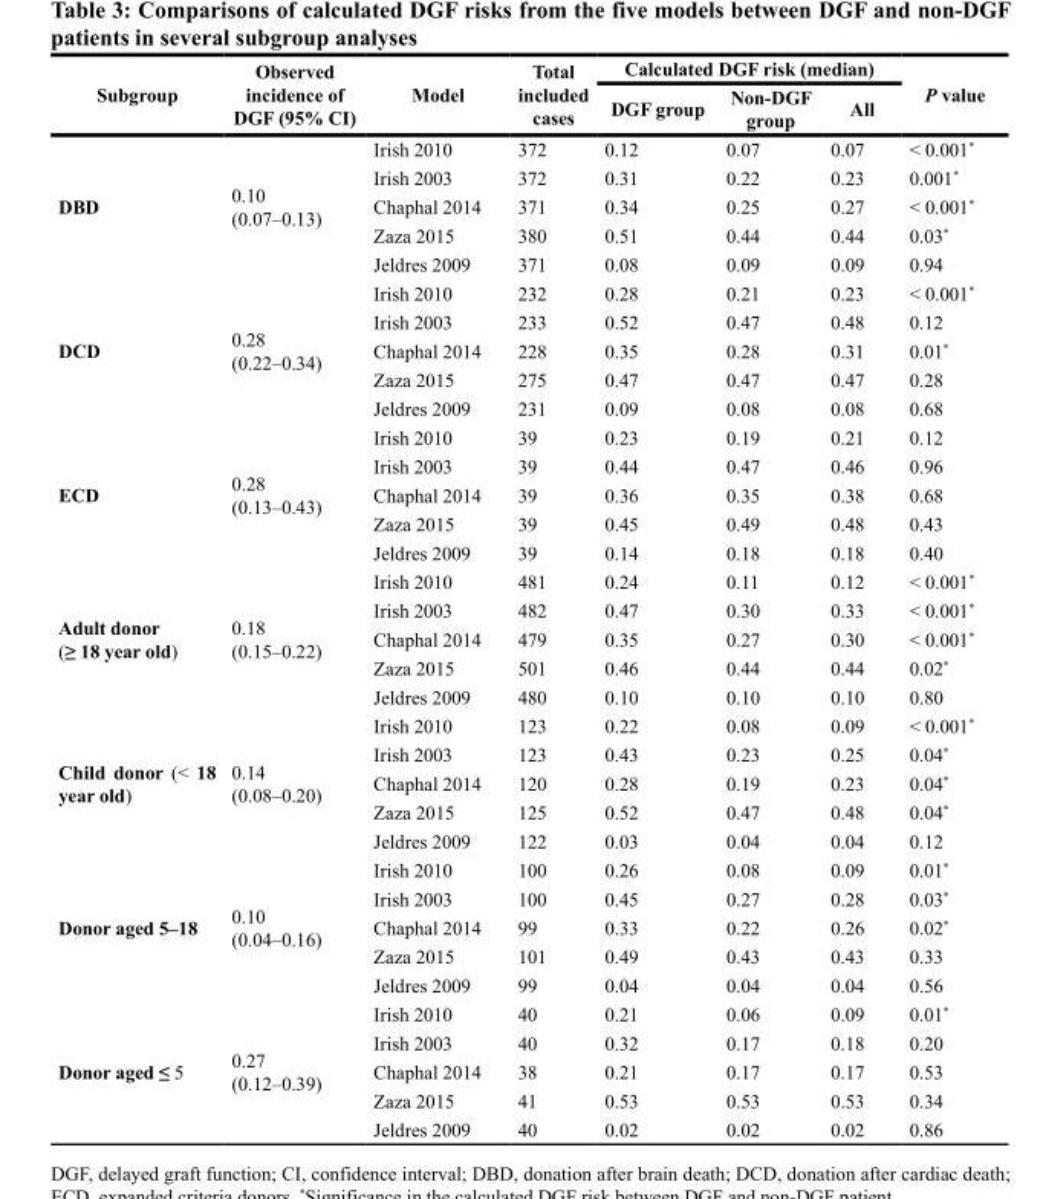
<table><thead><tr><td rowspan="2">Subgroup</td><td rowspan="2">Observed incidence of DGF (95% CI)</td><td rowspan="2">Model</td><td rowspan="2">Total included cases</td><td colspan="3">Calculated DGF risk (median)</td><td rowspan="2">P value</td></tr><tr><td>DGF group</td><td>Non-DGF group</td><td>All</td></tr></thead><tbody><tr><td rowspan="5">DBD</td><td rowspan="5">0.10 (0.07–0.13)</td><td>Irish 2010</td><td>372</td><td>0.12</td><td>0.07</td><td>0.07</td><td>&lt; 0.001*</td></tr><tr><td>Irish 2003</td><td>372</td><td>0.31</td><td>0.22</td><td>0.23</td><td>0.001*</td></tr><tr><td>Chaphal 2014</td><td>371</td><td>0.34</td><td>0.25</td><td>0.27</td><td>&lt; 0.001*</td></tr><tr><td>Zaza 2015</td><td>380</td><td>0.51</td><td>0.44</td><td>0.44</td><td>0.03*</td></tr><tr><td>Jeldres 2009</td><td>371</td><td>0.08</td><td>0.09</td><td>0.09</td><td>0.94</td></tr><tr><td rowspan="5">DCD</td><td rowspan="5">0.28 (0.22–0.34)</td><td>Irish 2010</td><td>232</td><td>0.28</td><td>0.21</td><td>0.23</td><td>&lt; 0.001*</td></tr><tr><td>Irish 2003</td><td>233</td><td>0.52</td><td>0.47</td><td>0.48</td><td>0.12</td></tr><tr><td>Chaphal 2014</td><td>228</td><td>0.35</td><td>0.28</td><td>0.31</td><td>0.01*</td></tr><tr><td>Zaza 2015</td><td>275</td><td>0.47</td><td>0.47</td><td>0.47</td><td>0.28</td></tr><tr><td>Jeldres 2009</td><td>231</td><td>0.09</td><td>0.08</td><td>0.08</td><td>0.68</td></tr><tr><td rowspan="5">ECD</td><td rowspan="5">0.28 (0.13–0.43)</td><td>Irish 2010</td><td>39</td><td>0.23</td><td>0.19</td><td>0.21</td><td>0.12</td></tr><tr><td>Irish 2003</td><td>39</td><td>0.44</td><td>0.47</td><td>0.46</td><td>0.96</td></tr><tr><td>Chaphal 2014</td><td>39</td><td>0.36</td><td>0.35</td><td>0.38</td><td>0.68</td></tr><tr><td>Zaza 2015</td><td>39</td><td>0.45</td><td>0.49</td><td>0.48</td><td>0.43</td></tr><tr><td>Jeldres 2009</td><td>39</td><td>0.14</td><td>0.18</td><td>0.18</td><td>0.40</td></tr><tr><td rowspan="5">Adult donor (≥ 18 year old)</td><td rowspan="5">0.18 (0.15–0.22)</td><td>Irish 2010</td><td>481</td><td>0.24</td><td>0.11</td><td>0.12</td><td>&lt; 0.001*</td></tr><tr><td>Irish 2003</td><td>482</td><td>0.47</td><td>0.30</td><td>0.33</td><td>&lt; 0.001*</td></tr><tr><td>Chaphal 2014</td><td>479</td><td>0.35</td><td>0.27</td><td>0.30</td><td>&lt; 0.001*</td></tr><tr><td>Zaza 2015</td><td>501</td><td>0.46</td><td>0.44</td><td>0.44</td><td>0.02*</td></tr><tr><td>Jeldres 2009</td><td>480</td><td>0.10</td><td>0.10</td><td>0.10</td><td>0.80</td></tr><tr><td rowspan="5">Child donor (&lt; 18 year old)</td><td rowspan="5">0.14 (0.08–0.20)</td><td>Irish 2010</td><td>123</td><td>0.22</td><td>0.08</td><td>0.09</td><td>&lt; 0.001*</td></tr><tr><td>Irish 2003</td><td>123</td><td>0.43</td><td>0.23</td><td>0.25</td><td>0.04*</td></tr><tr><td>Chaphal 2014</td><td>120</td><td>0.28</td><td>0.19</td><td>0.23</td><td>0.04*</td></tr><tr><td>Zaza 2015</td><td>125</td><td>0.52</td><td>0.47</td><td>0.48</td><td>0.04*</td></tr><tr><td>Jeldres 2009</td><td>122</td><td>0.03</td><td>0.04</td><td>0.04</td><td>0.12</td></tr><tr><td rowspan="5">Donor aged 5–18</td><td rowspan="5">0.10 (0.04–0.16)</td><td>Irish 2010</td><td>100</td><td>0.26</td><td>0.08</td><td>0.09</td><td>0.01*</td></tr><tr><td>Irish 2003</td><td>100</td><td>0.45</td><td>0.27</td><td>0.28</td><td>0.03*</td></tr><tr><td>Chaphal 2014</td><td>99</td><td>0.33</td><td>0.22</td><td>0.26</td><td>0.02*</td></tr><tr><td>Zaza 2015</td><td>101</td><td>0.49</td><td>0.43</td><td>0.43</td><td>0.33</td></tr><tr><td>Jeldres 2009</td><td>99</td><td>0.04</td><td>0.04</td><td>0.04</td><td>0.56</td></tr><tr><td rowspan="5">Donor aged ≤ 5</td><td rowspan="5">0.27 (0.12–0.39)</td><td>Irish 2010</td><td>40</td><td>0.21</td><td>0.06</td><td>0.09</td><td>0.01*</td></tr><tr><td>Irish 2003</td><td>40</td><td>0.32</td><td>0.17</td><td>0.18</td><td>0.20</td></tr><tr><td>Chaphal 2014</td><td>38</td><td>0.21</td><td>0.17</td><td>0.17</td><td>0.53</td></tr><tr><td>Zaza 2015</td><td>41</td><td>0.53</td><td>0.53</td><td>0.53</td><td>0.34</td></tr><tr><td>Jeldres 2009</td><td>40</td><td>0.02</td><td>0.02</td><td>0.02</td><td>0.86</td></tr></tbody></table>